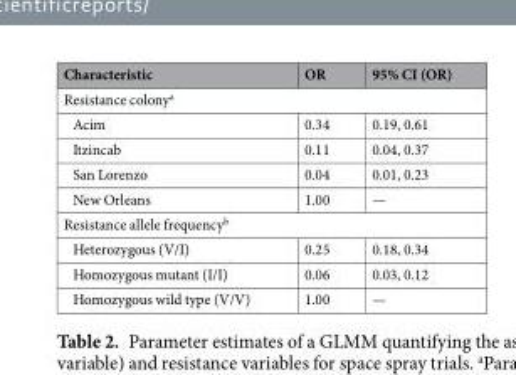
<table><thead><tr><td>Characteristic</td><td>OR</td><td>95% CI (OR)</td></tr></thead><tbody><tr><td colspan="3">Resistance colony<sup>a</sup></td></tr><tr><td>Acim</td><td>0.34</td><td>0.19, 0.61</td></tr><tr><td>Itzincab</td><td>0.11</td><td>0.04, 0.37</td></tr><tr><td>San Lorenzo</td><td>0.04</td><td>0.01, 0.23</td></tr><tr><td>New Orleans</td><td>1.00</td><td>—</td></tr><tr><td colspan="3">Resistance allele frequency<sup>b</sup></td></tr><tr><td>Heterozygous (V/I)</td><td>0.25</td><td>0.18, 0.34</td></tr><tr><td>Homozygous mutant (I/I)</td><td>0.06</td><td>0.03, 0.12</td></tr><tr><td>Homozygous wild type (V/V)</td><td>1.00</td><td>—</td></tr></tbody></table>